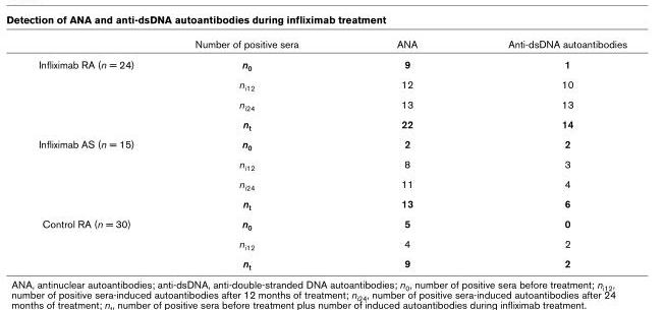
<table><thead><tr><td></td><td>Number of positive sera</td><td>ANA</td><td>Anti-dsDNA autoantibodies</td></tr></thead><tbody><tr><td rowspan="4">Infliximab RA (n = 24)</td><td>n0</td><td>9</td><td>1</td></tr><tr><td>ni12</td><td>12</td><td>10</td></tr><tr><td>ni24</td><td>13</td><td>13</td></tr><tr><td>nt</td><td>22</td><td>14</td></tr><tr><td rowspan="4">Infliximab AS (n = 15)</td><td>n0</td><td>2</td><td>2</td></tr><tr><td>ni12</td><td>8</td><td>3</td></tr><tr><td>ni24</td><td>11</td><td>4</td></tr><tr><td>nt</td><td>13</td><td>6</td></tr><tr><td rowspan="3">Control RA (n = 30)</td><td>n0</td><td>5</td><td>0</td></tr><tr><td>ni12</td><td>4</td><td>2</td></tr><tr><td>nt</td><td>9</td><td>2</td></tr></tbody></table>